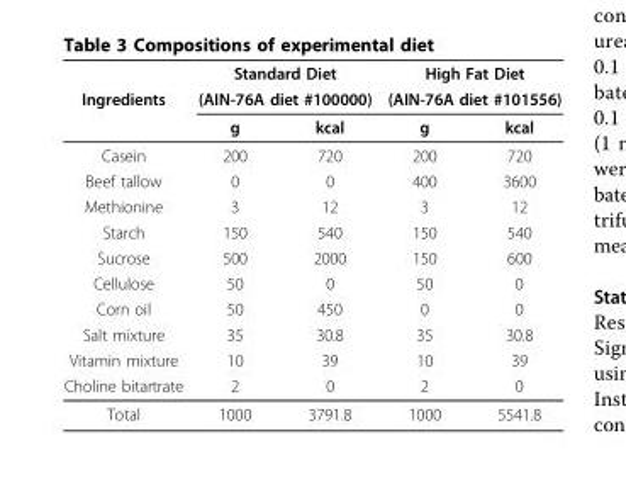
<table><thead><tr><td rowspan="3">Ingredients</td><td rowspan="2" colspan="2">Standard Diet (AIN-76A diet #100000)</td><td rowspan="2" colspan="2">High Fat Diet (AIN-76A diet #101556)</td></tr><tr></tr><tr><td>g</td><td>kcal</td><td>g</td><td>kcal</td></tr></thead><tbody><tr><td>Casein</td><td>200</td><td>720</td><td>200</td><td>720</td></tr><tr><td>Beef tallow</td><td>0</td><td>0</td><td>400</td><td>3600</td></tr><tr><td>Methionine</td><td>3</td><td>12</td><td>3</td><td>12</td></tr><tr><td>Starch</td><td>150</td><td>540</td><td>150</td><td>540</td></tr><tr><td>Sucrose</td><td>500</td><td>2000</td><td>150</td><td>600</td></tr><tr><td>Cellulose</td><td>50</td><td>0</td><td>50</td><td>0</td></tr><tr><td>Corn oil</td><td>50</td><td>450</td><td>0</td><td>0</td></tr><tr><td>Salt mixture</td><td>35</td><td>30.8</td><td>35</td><td>30.8</td></tr><tr><td>Vitamin mixture</td><td>10</td><td>39</td><td>10</td><td>39</td></tr><tr><td>Choline bitartrate</td><td>2</td><td>0</td><td>2</td><td>0</td></tr><tr><td>Total</td><td>1000</td><td>3791.8</td><td>1000</td><td>5541.8</td></tr></tbody></table>